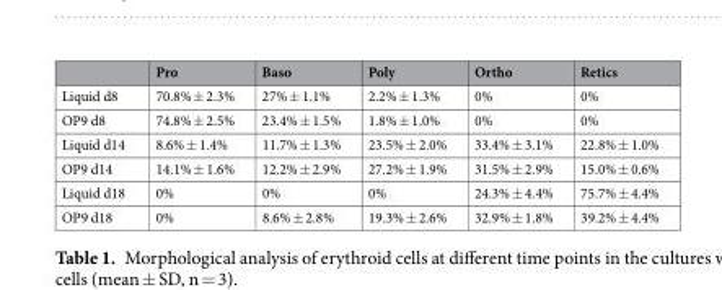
<table><thead><tr><td></td><td>Pro</td><td>Baso</td><td>Poly</td><td>Ortho</td><td>Retics</td></tr></thead><tbody><tr><td>Liquid d8</td><td>70.8% ± 2.3%</td><td>27% ± 1.1%</td><td>2.2% ± 1.3%</td><td>0%</td><td>0%</td></tr><tr><td>OP9 d8</td><td>74.8% ± 2.5%</td><td>23.4% ± 1.5%</td><td>1.8% ± 1.0%</td><td>0%</td><td>0%</td></tr><tr><td>Liquid d14</td><td>8.6% ± 1.4%</td><td>11.7% ± 1.3%</td><td>23.5% ± 2.0%</td><td>33.4% ± 3.1%</td><td>22.8% ± 1.0%</td></tr><tr><td>OP9 d14</td><td>14.1% ± 1.6%</td><td>12.2% ± 2.9%</td><td>27.2% ± 1.9%</td><td>31.5% ± 2.9%</td><td>15.0% ± 0.6%</td></tr><tr><td>Liquid d18</td><td>0%</td><td>0%</td><td>0%</td><td>24.3% ± 4.4%</td><td>75.7% ± 4.4%</td></tr><tr><td>OP9 d18</td><td>0%</td><td>8.6% ± 2.8%</td><td>19.3% ± 2.6%</td><td>32.9% ± 1.8%</td><td>39.2% ± 4.4%</td></tr></tbody></table>